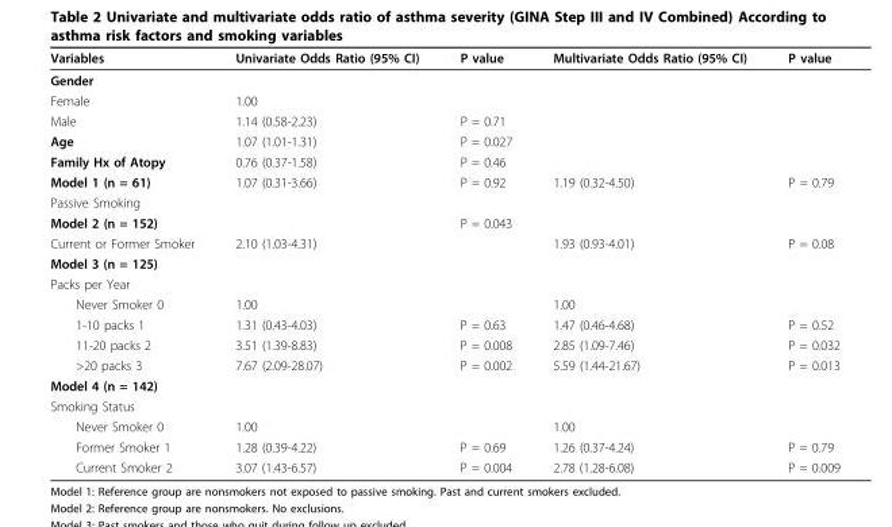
<table><tbody><tr><td>Variables</td><td>Univariate Odds Ratio (95% CI)</td><td>P value</td><td>Multivariate Odds Ratio (95% CI)</td><td>P value</td></tr><tr><td colspan="5">Gender</td></tr><tr><td>Female</td><td>1.00</td><td></td><td></td><td></td></tr><tr><td>Male</td><td>1.14 (0.58-2.23)</td><td>P = 0.71</td><td></td><td></td></tr><tr><td>Age</td><td>1.07 (1.01-1.31)</td><td>P = 0.027</td><td></td><td></td></tr><tr><td>Family Hx of Atopy</td><td>0.76 (0.37-1.58)</td><td>P = 0.46</td><td></td><td></td></tr><tr><td>Model 1 (n = 61)</td><td>1.07 (0.31-3.66)</td><td>P = 0.92</td><td>1.19 (0.32-4.50)</td><td>P = 0.79</td></tr><tr><td colspan="5">Passive Smoking</td></tr><tr><td>Model 2 (n = 152)</td><td></td><td>P = 0.043</td><td></td><td></td></tr><tr><td>Current or Former Smoker</td><td>2.10 (1.03-4.31)</td><td></td><td>1.93 (0.93-4.01)</td><td>P = 0.08</td></tr><tr><td colspan="5">Model 3 (n = 125)</td></tr><tr><td colspan="5">Packs per Year</td></tr><tr><td>Never Smoker 0</td><td>1.00</td><td></td><td>1.00</td><td></td></tr><tr><td>1-10 packs 1</td><td>1.31 (0.43-4.03)</td><td>P = 0.63</td><td>1.47 (0.46-4.68)</td><td>P = 0.52</td></tr><tr><td>11-20 packs 2</td><td>3.51 (1.39-8.83)</td><td>P = 0.008</td><td>2.85 (1.09-7.46)</td><td>P = 0.032</td></tr><tr><td>&gt;20 packs 3</td><td>7.67 (2.09-28.07)</td><td>P = 0.002</td><td>5.59 (1.44-21.67)</td><td>P = 0.013</td></tr><tr><td colspan="5">Model 4 (n = 142)</td></tr><tr><td colspan="5">Smoking Status</td></tr><tr><td>Never Smoker 0</td><td>1.00</td><td></td><td>1.00</td><td></td></tr><tr><td>Former Smoker 1</td><td>1.28 (0.39-4.22)</td><td>P = 0.69</td><td>1.26 (0.37-4.24)</td><td>P = 0.79</td></tr><tr><td>Current Smoker 2</td><td>3.07 (1.43-6.57)</td><td>P = 0.004</td><td>2.78 (1.28-6.08)</td><td>P = 0.009</td></tr></tbody></table>